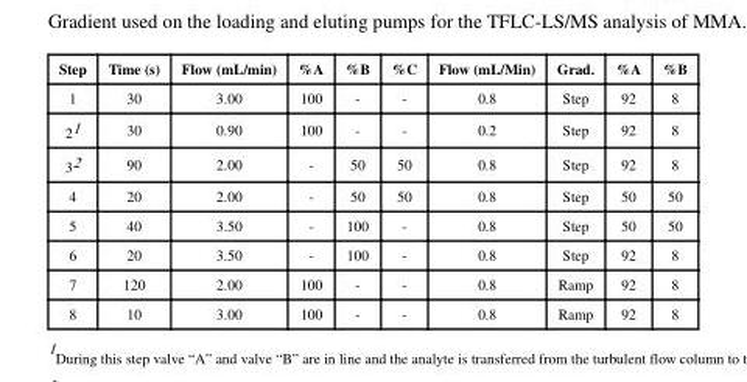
<table><thead><tr><td>Step</td><td>Time (s)</td><td>Flow (mL/min)</td><td>%A</td><td>%B</td><td>%C</td><td>Flow (mL/Min)</td><td>Grad.</td><td>%A</td><td>%B</td></tr></thead><tbody><tr><td>1</td><td>30</td><td>3.00</td><td>100</td><td>-</td><td>-</td><td>0.8</td><td>Step</td><td>92</td><td>8</td></tr><tr><td>2<sup>1</sup></td><td>30</td><td>0.90</td><td>100</td><td>-</td><td>-</td><td>0.2</td><td>Step</td><td>92</td><td>8</td></tr><tr><td>3<sup>2</sup></td><td>90</td><td>2.00</td><td>-</td><td>50</td><td>50</td><td>0.8</td><td>Step</td><td>92</td><td>8</td></tr><tr><td>4</td><td>20</td><td>2.00</td><td>-</td><td>50</td><td>50</td><td>0.8</td><td>Step</td><td>50</td><td>50</td></tr><tr><td>5</td><td>40</td><td>3.50</td><td>-</td><td>100</td><td>-</td><td>0.8</td><td>Step</td><td>50</td><td>50</td></tr><tr><td>6</td><td>20</td><td>3.50</td><td>-</td><td>100</td><td>-</td><td>0.8</td><td>Step</td><td>92</td><td>8</td></tr><tr><td>7</td><td>120</td><td>2.00</td><td>100</td><td>-</td><td>-</td><td>0.8</td><td>Ramp</td><td>92</td><td>8</td></tr><tr><td>8</td><td>10</td><td>3.00</td><td>100</td><td>-</td><td>-</td><td>0.8</td><td>Ramp</td><td>92</td><td>8</td></tr></tbody></table>